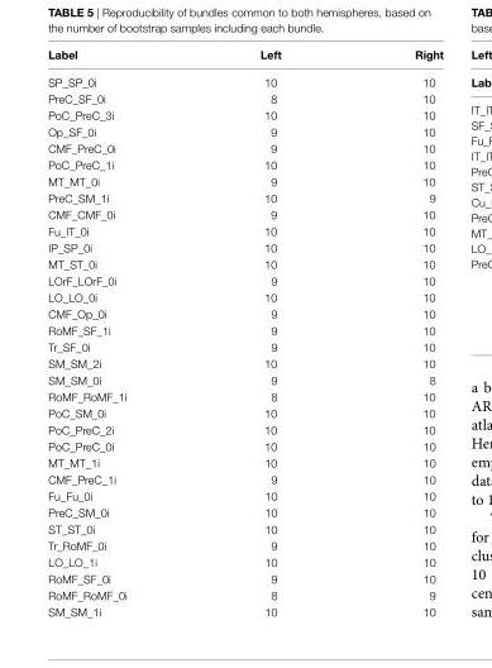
<table><thead><tr><td>label</td><td>left</td><td>right</td></tr></thead><tbody><tr><td>SP_SP_0i</td><td>10</td><td>10</td></tr><tr><td>PreC_SF_0i</td><td>8</td><td>10</td></tr><tr><td>PoC_PreC_3i</td><td>10</td><td>10</td></tr><tr><td>Op_SF_0i</td><td>9</td><td>10</td></tr><tr><td>CMF_PreC_0i</td><td>9</td><td>10</td></tr><tr><td>PoC_PreC_1i</td><td>10</td><td>10</td></tr><tr><td>MT_MT_0i</td><td>9</td><td>10</td></tr><tr><td>PreC_SM_1i</td><td>10</td><td>9</td></tr><tr><td>CMF_CMF_0i</td><td>9</td><td>10</td></tr><tr><td>Fu_IT_0i</td><td>10</td><td>10</td></tr><tr><td>IP_SP_0i</td><td>10</td><td>10</td></tr><tr><td>MT_ST_0i</td><td>10</td><td>10</td></tr><tr><td>LOrF_LOrF_0i</td><td>9</td><td>10</td></tr><tr><td>LO_LO_0i</td><td>10</td><td>10</td></tr><tr><td>CMF_Op_0i</td><td>9</td><td>10</td></tr><tr><td>RoMF_SF_1i</td><td>9</td><td>10</td></tr><tr><td>Tr_SF_0i</td><td>9</td><td>10</td></tr><tr><td>SM_SM_2i</td><td>10</td><td>10</td></tr><tr><td>SM_SM_0i</td><td>9</td><td>8</td></tr><tr><td>RoMF_RoMF_1i</td><td>8</td><td>10</td></tr><tr><td>PoC_SM_0i</td><td>10</td><td>10</td></tr><tr><td>PoC_PreC_2i</td><td>10</td><td>10</td></tr><tr><td>PoC_PreC_0i</td><td>10</td><td>10</td></tr><tr><td>MT_MT_1i</td><td>10</td><td>10</td></tr><tr><td>CMF_PreC_1i</td><td>9</td><td>10</td></tr><tr><td>Fu_Fu_0i</td><td>10</td><td>10</td></tr><tr><td>PreC_SM_0i</td><td>10</td><td>10</td></tr><tr><td>ST_ST_0i</td><td>10</td><td>10</td></tr><tr><td>Tr_RoMF_0i</td><td>9</td><td>10</td></tr><tr><td>LO_LO_1i</td><td>10</td><td>10</td></tr><tr><td>RoMF_SF_0i</td><td>9</td><td>10</td></tr><tr><td>RoMF_RoMF_0i</td><td>8</td><td>9</td></tr><tr><td>SM_SM_1i</td><td>10</td><td>10</td></tr></tbody></table>